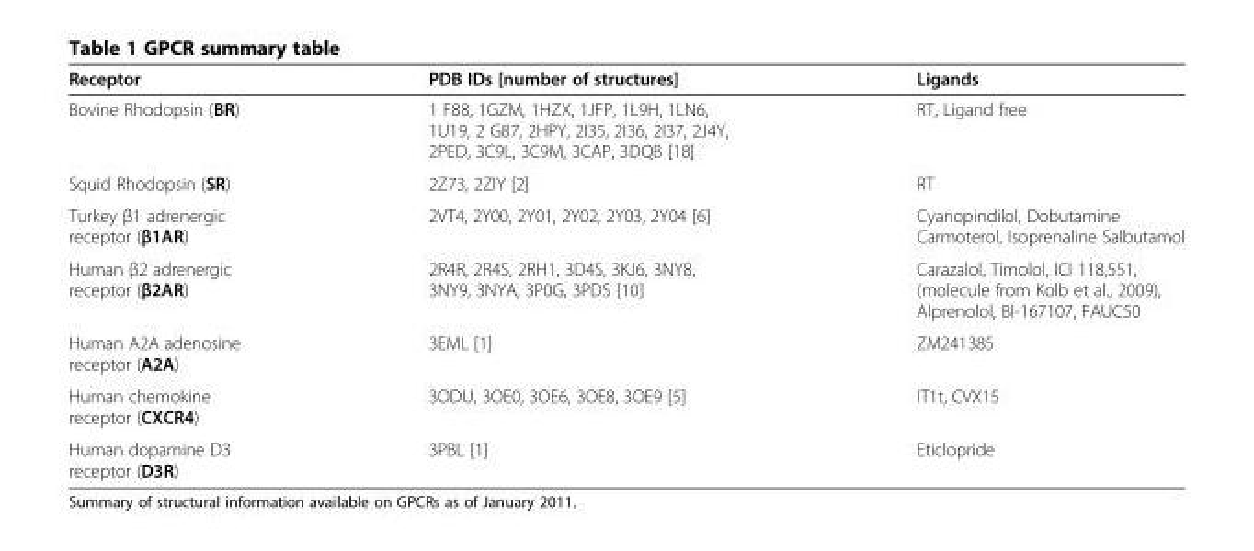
<table><thead><tr><td>Receptor</td><td>PDB IDs [number of structures]</td><td>Ligands</td></tr></thead><tbody><tr><td>Bovine Rhodopsin (BR)</td><td>1 F88, 1GZM, 1HZX, 1JFP, 1L9H, 1LN6, 1U19, 2 G87, 2HPY, 2I35, 2I36, 2I37, 2J4Y, 2PED, 3C9L, 3C9M, 3CAP, 3DQB [18]</td><td>RT, Ligand free</td></tr><tr><td>Squid Rhodopsin (SR)</td><td>2Z73, 2ZIY [2]</td><td>RT</td></tr><tr><td>Turkey β1 adrenergic receptor (β1AR)</td><td>2VT4, 2Y00, 2Y01, 2Y02, 2Y03, 2Y04 [6]</td><td>Cyanopindilol, Dobutamine Carmoterol, Isoprenaline Salbutamol</td></tr><tr><td>Human β2 adrenergic receptor (β2AR)</td><td>2R4R, 2R4S, 2RH1, 3D4S, 3KJ6, 3NY8, 3NY9, 3NYA, 3P0G, 3PDS [10]</td><td>Carazalol, Timolol, ICI 118,551, (molecule from Kolb et al., 2009), Alprenolol, BI-167107, FAUC50</td></tr><tr><td>Human A2A adenosine receptor (A2A)</td><td>3EML [1]</td><td>ZM241385</td></tr><tr><td>Human chemokine receptor (CXCR4)</td><td>3ODU, 3OE0, 3OE6, 3OE8, 3OE9 [5]</td><td>IT1t, CVX15</td></tr><tr><td>Human dopamine D3 receptor (D3R)</td><td>3PBL [1]</td><td>Eticlopride</td></tr></tbody></table>